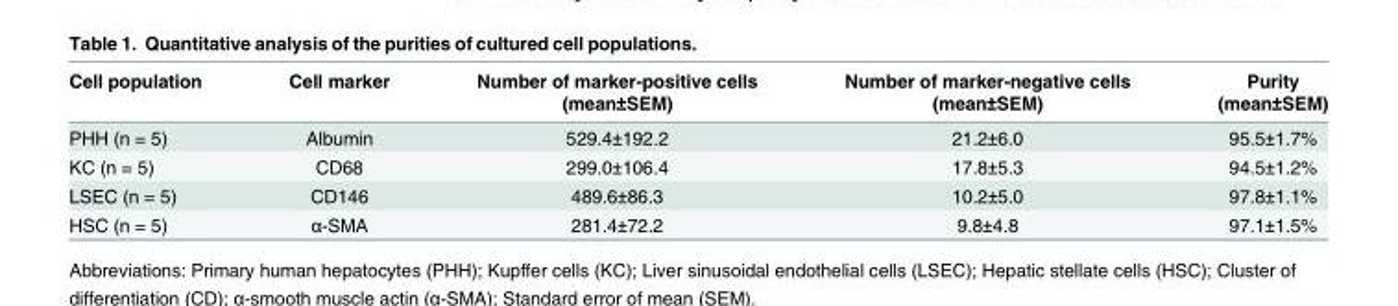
<table><thead><tr><td rowspan="2">Cell population</td><td rowspan="2">Cell marker</td><td rowspan="2">Number of marker-positive cells (mean±SEM)</td><td rowspan="2">Number of marker-negative cells (mean±SEM)</td><td rowspan="2">Purity (mean±SEM)</td></tr><tr></tr></thead><tbody><tr><td>PHH (n = 5)</td><td>Albumin</td><td>529.4±192.2</td><td>21.2±6.0</td><td>95.5±1.7%</td></tr><tr><td>KC (n = 5)</td><td>CD68</td><td>299.0±106.4</td><td>17.8±5.3</td><td>94.5±1.2%</td></tr><tr><td>LSEC (n = 5)</td><td>CD146</td><td>489.6±86.3</td><td>10.2±5.0</td><td>97.8±1.1%</td></tr><tr><td>HSC (n = 5)</td><td>α-SMA</td><td>281.4±72.2</td><td>9.8±4.8</td><td>97.1±1.5%</td></tr></tbody></table>